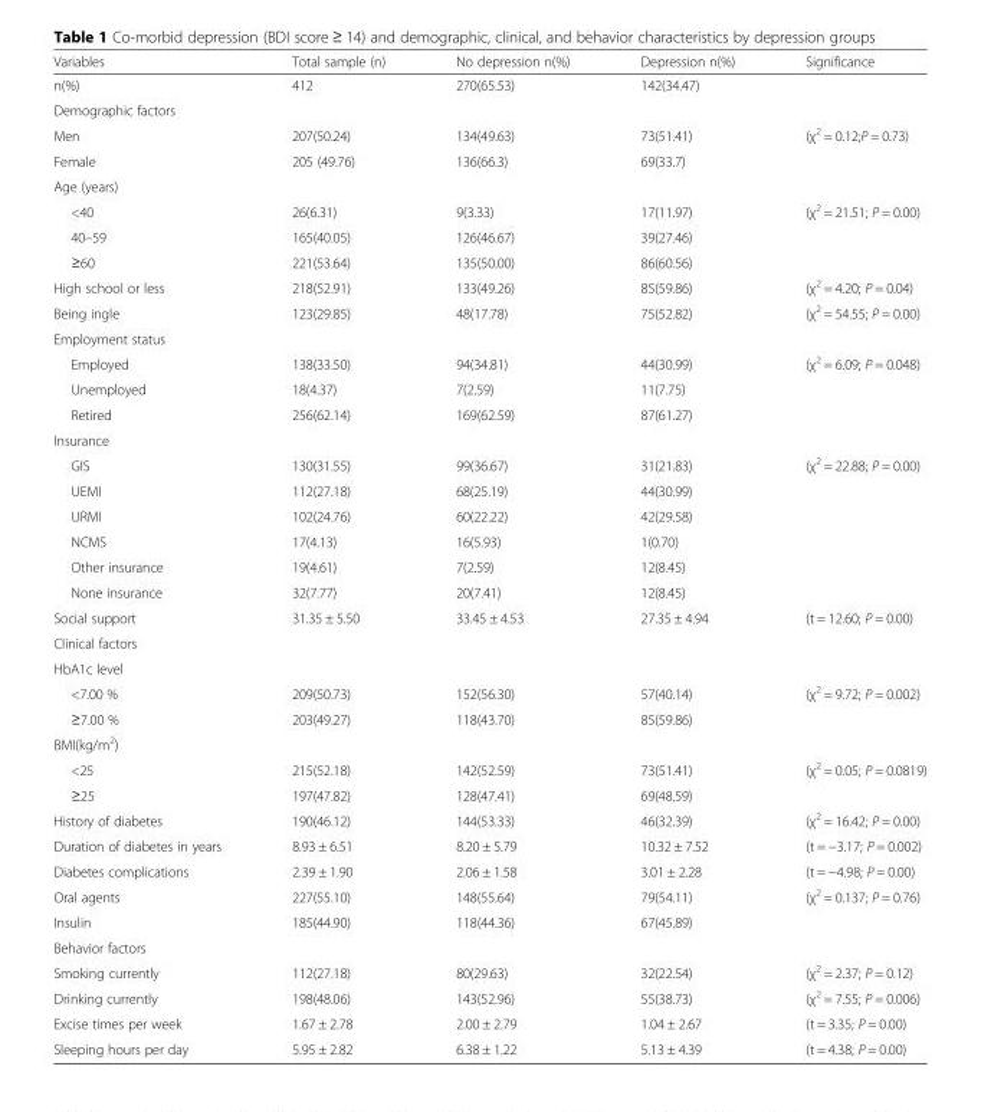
<table><thead><tr><td>Variables</td><td>Total sample (n)</td><td>No depression n(%)</td><td>Depression n(%)</td><td>Significance</td></tr></thead><tbody><tr><td>n(%)</td><td>412</td><td>270(65.53)</td><td>142(34.47)</td><td></td></tr><tr><td colspan="5">Demographic factors</td></tr><tr><td>Men</td><td>207(50.24)</td><td>134(49.63)</td><td>73(51.41)</td><td>(χ<sup>2</sup> = 0.12;P = 0.73)</td></tr><tr><td>Female</td><td>205 (49.76)</td><td>136(66.3)</td><td>69(33.7)</td><td></td></tr><tr><td colspan="5">Age (years)</td></tr><tr><td>&lt;40</td><td>26(6.31)</td><td>9(3.33)</td><td>17(11.97)</td><td rowspan="3">(χ<sup>2</sup> = 21.51; P = 0.00)</td></tr><tr><td>40–59</td><td>165(40.05)</td><td>126(46.67)</td><td>39(27.46)</td></tr><tr><td>≥60</td><td>221(53.64)</td><td>135(50.00)</td><td>86(60.56)</td></tr><tr><td>High school or less</td><td>218(52.91)</td><td>133(49.26)</td><td>85(59.86)</td><td>(χ<sup>2</sup> = 4.20; P = 0.04)</td></tr><tr><td>Being ingle</td><td>123(29.85)</td><td>48(17.78)</td><td>75(52.82)</td><td>(χ<sup>2</sup> = 54.55; P = 0.00)</td></tr><tr><td colspan="5">Employment status</td></tr><tr><td>Employed</td><td>138(33.50)</td><td>94(34.81)</td><td>44(30.99)</td><td rowspan="3">(χ<sup>2</sup> = 6.09; P = 0.048)</td></tr><tr><td>Unemployed</td><td>18(4.37)</td><td>7(2.59)</td><td>11(7.75)</td></tr><tr><td>Retired</td><td>256(62.14)</td><td>169(62.59)</td><td>87(61.27)</td></tr><tr><td colspan="5">Insurance</td></tr><tr><td>GIS</td><td>130(31.55)</td><td>99(36.67)</td><td>31(21.83)</td><td rowspan="6">(χ<sup>2</sup> = 22.88; P = 0.00)</td></tr><tr><td>UEMI</td><td>112(27.18)</td><td>68(25.19)</td><td>44(30.99)</td></tr><tr><td>URMI</td><td>102(24.76)</td><td>60(22.22)</td><td>42(29.58)</td></tr><tr><td>NCMS</td><td>17(4.13)</td><td>16(5.93)</td><td>1(0.70)</td></tr><tr><td>Other insurance</td><td>19(4.61)</td><td>7(2.59)</td><td>12(8.45)</td></tr><tr><td>None insurance</td><td>32(7.77)</td><td>20(7.41)</td><td>12(8.45)</td></tr><tr><td>Social support</td><td>31.35 ± 5.50</td><td>33.45 ± 4.53</td><td>27.35 ± 4.94</td><td>(t = 12.60; P = 0.00)</td></tr><tr><td colspan="5">Clinical factors</td></tr><tr><td colspan="5">HbA1c level</td></tr><tr><td>&lt;7.00 %</td><td>209(50.73)</td><td>152(56.30)</td><td>57(40.14)</td><td rowspan="2">(χ<sup>2</sup> = 9.72; P = 0.002)</td></tr><tr><td>≥7.00 %</td><td>203(49.27)</td><td>118(43.70)</td><td>85(59.86)</td></tr><tr><td colspan="5">BMI(kg/m<sup>2</sup>)</td></tr><tr><td>&lt;25</td><td>215(52.18)</td><td>142(52.59)</td><td>73(51.41)</td><td rowspan="2">(χ<sup>2</sup> = 0.05; P = 0.0819)</td></tr><tr><td>≥25</td><td>197(47.82)</td><td>128(47.41)</td><td>69(48.59)</td></tr><tr><td>History of diabetes</td><td>190(46.12)</td><td>144(53.33)</td><td>46(32.39)</td><td>(χ<sup>2</sup> = 16.42; P = 0.00)</td></tr><tr><td>Duration of diabetes in years</td><td>8.93 ± 6.51</td><td>8.20 ± 5.79</td><td>10.32 ± 7.52</td><td>(t = −3.17; P = 0.002)</td></tr><tr><td>Diabetes complications</td><td>2.39 ± 1.90</td><td>2.06 ± 1.58</td><td>3.01 ± 2.28</td><td>(t = −4.98; P = 0.00)</td></tr><tr><td>Oral agents</td><td>227(55.10)</td><td>148(55.64)</td><td>79(54.11)</td><td>(χ<sup>2</sup> = 0.137; P = 0.76)</td></tr><tr><td>Insulin</td><td>185(44.90)</td><td>118(44.36)</td><td>67(45.89)</td><td></td></tr><tr><td colspan="5">Behavior factors</td></tr><tr><td>Smoking currently</td><td>112(27.18)</td><td>80(29.63)</td><td>32(22.54)</td><td>(χ<sup>2</sup> = 2.37; P = 0.12)</td></tr><tr><td>Drinking currently</td><td>198(48.06)</td><td>143(52.96)</td><td>55(38.73)</td><td>(χ<sup>2</sup> = 7.55; P = 0.006)</td></tr><tr><td>Excise times per week</td><td>1.67 ± 2.78</td><td>2.00 ± 2.79</td><td>1.04 ± 2.67</td><td>(t = 3.35; P = 0.00)</td></tr><tr><td>Sleeping hours per day</td><td>5.95 ± 2.82</td><td>6.38 ± 1.22</td><td>5.13 ± 4.39</td><td>(t = 4.38; P = 0.00)</td></tr></tbody></table>